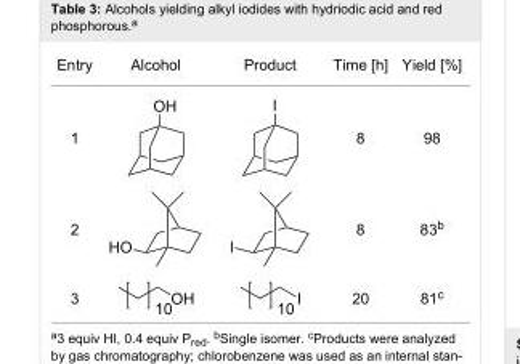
<table><tbody><tr><td>Entry</td><td>Alcohol</td><td>Product</td><td>Time [h]</td><td>Yield [%]</td></tr><tr><td>1</td><td></td><td></td><td>8</td><td>98</td></tr><tr><td>2</td><td></td><td></td><td>8</td><td>83<sup>b</sup></td></tr><tr><td>3</td><td></td><td></td><td>20</td><td>81<sup>c</sup></td></tr></tbody></table>